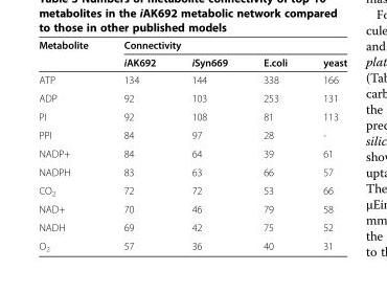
<table><thead><tr><td rowspan="2">Metabolite</td><td rowspan="2">Connectivity iAK692</td><td rowspan="2">iSyn669</td><td rowspan="2">E.coli</td><td rowspan="2">yeast</td></tr><tr></tr></thead><tbody><tr><td>ATP</td><td>134</td><td>144</td><td>338</td><td>166</td></tr><tr><td>ADP</td><td>92</td><td>103</td><td>253</td><td>131</td></tr><tr><td>PI</td><td>92</td><td>108</td><td>81</td><td>113</td></tr><tr><td>PPI</td><td>84</td><td>97</td><td>28</td><td>-</td></tr><tr><td>NADP+</td><td>84</td><td>64</td><td>39</td><td>61</td></tr><tr><td>NADPH</td><td>83</td><td>63</td><td>66</td><td>57</td></tr><tr><td>CO<sub>2</sub></td><td>72</td><td>72</td><td>53</td><td>66</td></tr><tr><td>NAD+</td><td>70</td><td>46</td><td>79</td><td>58</td></tr><tr><td>NADH</td><td>69</td><td>42</td><td>75</td><td>52</td></tr><tr><td>O<sub>2</sub></td><td>57</td><td>36</td><td>40</td><td>31</td></tr></tbody></table>